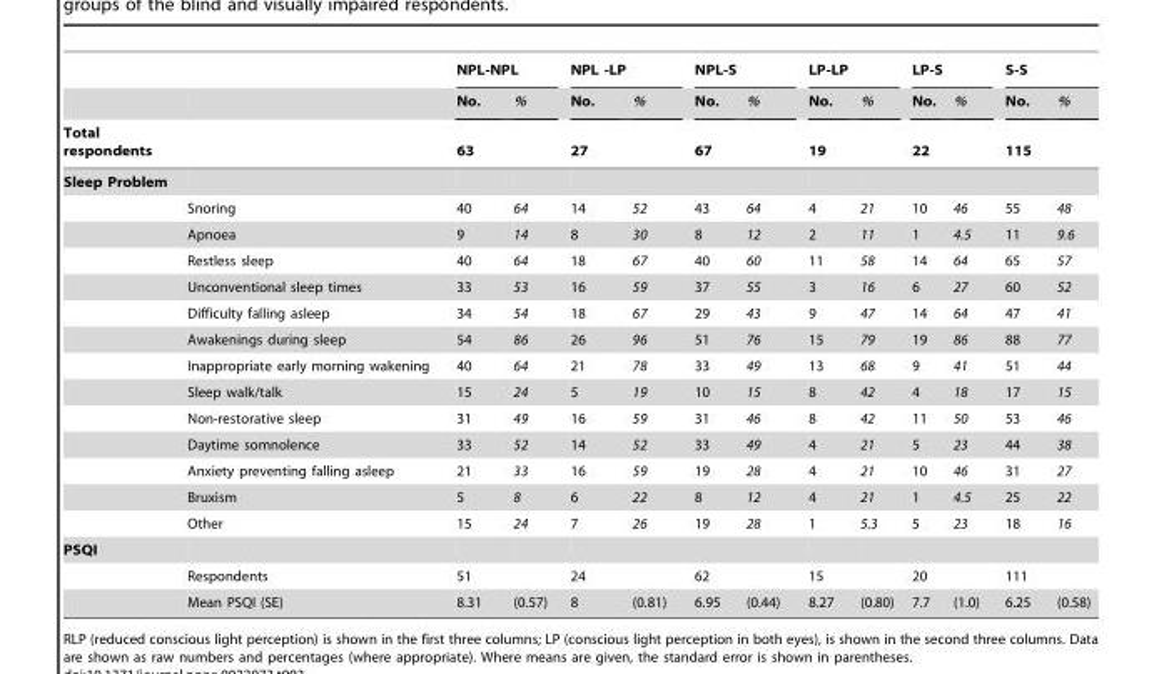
<table><thead><tr><td rowspan="3">Total respondents</td><td rowspan="3"></td><td colspan="2">NPL-NPL</td><td colspan="2">NPL -LP</td><td colspan="2">NPL-S</td><td colspan="2">LP-LP</td><td colspan="2">LP-S</td><td colspan="2">S-S</td></tr><tr><td>No.</td><td>%</td><td>No.</td><td>%</td><td>No.</td><td>%</td><td>No.</td><td>%</td><td>No.</td><td>%</td><td>No.</td><td>%</td></tr><tr><td colspan="2">63</td><td colspan="2">27</td><td colspan="2">67</td><td colspan="2">19</td><td colspan="2">22</td><td colspan="2">115</td></tr></thead><tbody><tr><td colspan="14">Sleep Problem</td></tr><tr><td></td><td>Snoring</td><td>40</td><td>64</td><td>14</td><td>52</td><td>43</td><td>64</td><td>4</td><td>21</td><td>10</td><td>46</td><td>55</td><td>48</td></tr><tr><td></td><td>Apnoea</td><td>9</td><td>14</td><td>8</td><td>30</td><td>8</td><td>12</td><td>2</td><td>11</td><td>1</td><td>4.5</td><td>11</td><td>9.6</td></tr><tr><td></td><td>Restless sleep</td><td>40</td><td>64</td><td>18</td><td>67</td><td>40</td><td>60</td><td>11</td><td>58</td><td>14</td><td>64</td><td>65</td><td>57</td></tr><tr><td></td><td>Unconventional sleep times</td><td>33</td><td>53</td><td>16</td><td>59</td><td>37</td><td>55</td><td>3</td><td>16</td><td>6</td><td>27</td><td>60</td><td>52</td></tr><tr><td></td><td>Difficulty falling asleep</td><td>34</td><td>54</td><td>18</td><td>67</td><td>29</td><td>43</td><td>9</td><td>47</td><td>14</td><td>64</td><td>47</td><td>41</td></tr><tr><td></td><td>Awakenings during sleep</td><td>54</td><td>86</td><td>26</td><td>96</td><td>51</td><td>76</td><td>15</td><td>79</td><td>19</td><td>86</td><td>88</td><td>77</td></tr><tr><td></td><td>Inappropriate early morning wakening</td><td>40</td><td>64</td><td>21</td><td>78</td><td>33</td><td>49</td><td>13</td><td>68</td><td>9</td><td>41</td><td>51</td><td>44</td></tr><tr><td></td><td>Sleep walk/talk</td><td>15</td><td>24</td><td>5</td><td>19</td><td>10</td><td>15</td><td>8</td><td>42</td><td>4</td><td>18</td><td>17</td><td>15</td></tr><tr><td></td><td>Non-restorative sleep</td><td>31</td><td>49</td><td>16</td><td>59</td><td>31</td><td>46</td><td>8</td><td>42</td><td>11</td><td>50</td><td>53</td><td>46</td></tr><tr><td></td><td>Daytime somnolence</td><td>33</td><td>52</td><td>14</td><td>52</td><td>33</td><td>49</td><td>4</td><td>21</td><td>5</td><td>23</td><td>44</td><td>38</td></tr><tr><td></td><td>Anxiety preventing falling asleep</td><td>21</td><td>33</td><td>16</td><td>59</td><td>19</td><td>28</td><td>4</td><td>21</td><td>10</td><td>46</td><td>31</td><td>27</td></tr><tr><td></td><td>Bruxism</td><td>5</td><td>8</td><td>6</td><td>22</td><td>8</td><td>12</td><td>4</td><td>21</td><td>1</td><td>4.5</td><td>25</td><td>22</td></tr><tr><td></td><td>Other</td><td>15</td><td>24</td><td>7</td><td>26</td><td>19</td><td>28</td><td>1</td><td>5.3</td><td>5</td><td>23</td><td>18</td><td>16</td></tr><tr><td colspan="14">PSQI</td></tr><tr><td></td><td>Respondents</td><td>51</td><td></td><td>24</td><td></td><td>62</td><td></td><td>15</td><td></td><td>20</td><td></td><td>111</td><td></td></tr><tr><td></td><td>Mean PSQI (SE)</td><td>8.31</td><td>(0.57)</td><td>8</td><td>(0.81)</td><td>6.95</td><td>(0.44)</td><td>8.27</td><td>(0.80)</td><td>7.7</td><td>(1.0)</td><td>6.25</td><td>(0.58)</td></tr></tbody></table>